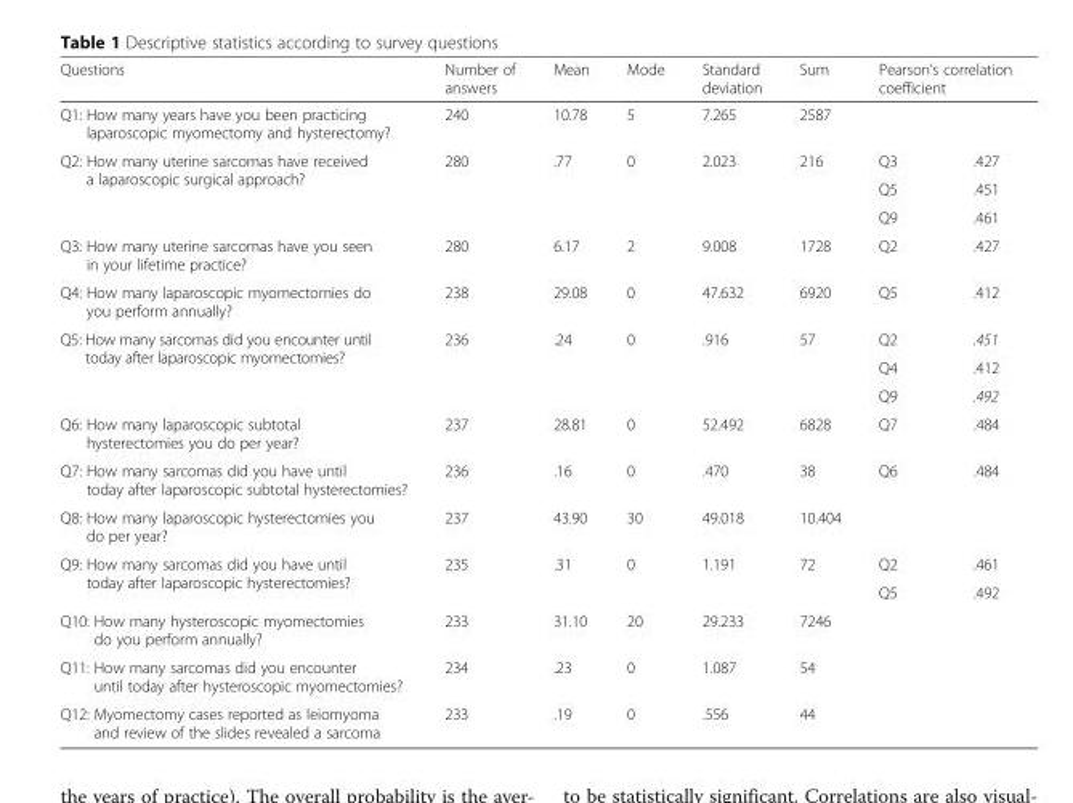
<table><thead><tr><td rowspan="2">Questions Q1: How many years have you been practicing laparoscopic myomectomy and hysterectomy?</td><td rowspan="2">Number of answers 240</td><td rowspan="2">Mean 10.78</td><td rowspan="2">Mode 5</td><td rowspan="2">Standard deviation 7.265</td><td rowspan="2">Sum 2587</td><td colspan="2">Pearson’s correlation coefficient</td></tr><tr><td></td><td></td></tr></thead><tbody><tr><td rowspan="3">Q2: How many uterine sarcomas have received a laparoscopic surgical approach?</td><td rowspan="3">280</td><td rowspan="3">.77</td><td rowspan="3">0</td><td rowspan="3">2.023</td><td rowspan="3">216</td><td>Q3</td><td>.427</td></tr><tr><td>Q5</td><td>.451</td></tr><tr><td>Q9</td><td>.461</td></tr><tr><td>Q3: How many uterine sarcomas have you seen in your lifetime practice?</td><td>280</td><td>6.17</td><td>2</td><td>9.008</td><td>1728</td><td>Q2</td><td>.427</td></tr><tr><td>Q4: How many laparoscopic myomectomies do you perform annually?</td><td>238</td><td>29.08</td><td>0</td><td>47.632</td><td>6920</td><td>Q5</td><td>.412</td></tr><tr><td rowspan="3">Q5: How many sarcomas did you encounter until today after laparoscopic myomectomies?</td><td rowspan="3">236</td><td rowspan="3">.24</td><td rowspan="3">0</td><td rowspan="3">.916</td><td rowspan="3">57</td><td>Q2</td><td>.451</td></tr><tr><td>Q4</td><td>.412</td></tr><tr><td>Q9</td><td>.492</td></tr><tr><td>Q6: How many laparoscopic subtotal hysterectomies you do per year?</td><td>237</td><td>28.81</td><td>0</td><td>52.492</td><td>6828</td><td>Q7</td><td>.484</td></tr><tr><td>Q7: How many sarcomas did you have until today after laparoscopic subtotal hysterectomies?</td><td>236</td><td>.16</td><td>0</td><td>.470</td><td>38</td><td>Q6</td><td>.484</td></tr><tr><td>Q8: How many laparoscopic hysterectomies you do per year?</td><td>237</td><td>43.90</td><td>30</td><td>49.018</td><td>10.404</td><td></td><td></td></tr><tr><td rowspan="2">Q9: How many sarcomas did you have until today after laparoscopic hysterectomies?</td><td rowspan="2">235</td><td rowspan="2">.31</td><td rowspan="2">0</td><td rowspan="2">1.191</td><td rowspan="2">72</td><td>Q2</td><td>.461</td></tr><tr><td>Q5</td><td>.492</td></tr><tr><td>Q10: How many hysteroscopic myomectomies do you perform annually?</td><td>233</td><td>31.10</td><td>20</td><td>29.233</td><td>7246</td><td></td><td></td></tr><tr><td>Q11: How many sarcomas did you encounter until today after hysteroscopic myomectomies?</td><td>234</td><td>.23</td><td>0</td><td>1.087</td><td>54</td><td></td><td></td></tr><tr><td>Q12: Myomectomy cases reported as leiomyoma and review of the slides revealed a sarcoma</td><td>233</td><td>.19</td><td>0</td><td>.556</td><td>44</td><td></td><td></td></tr></tbody></table>